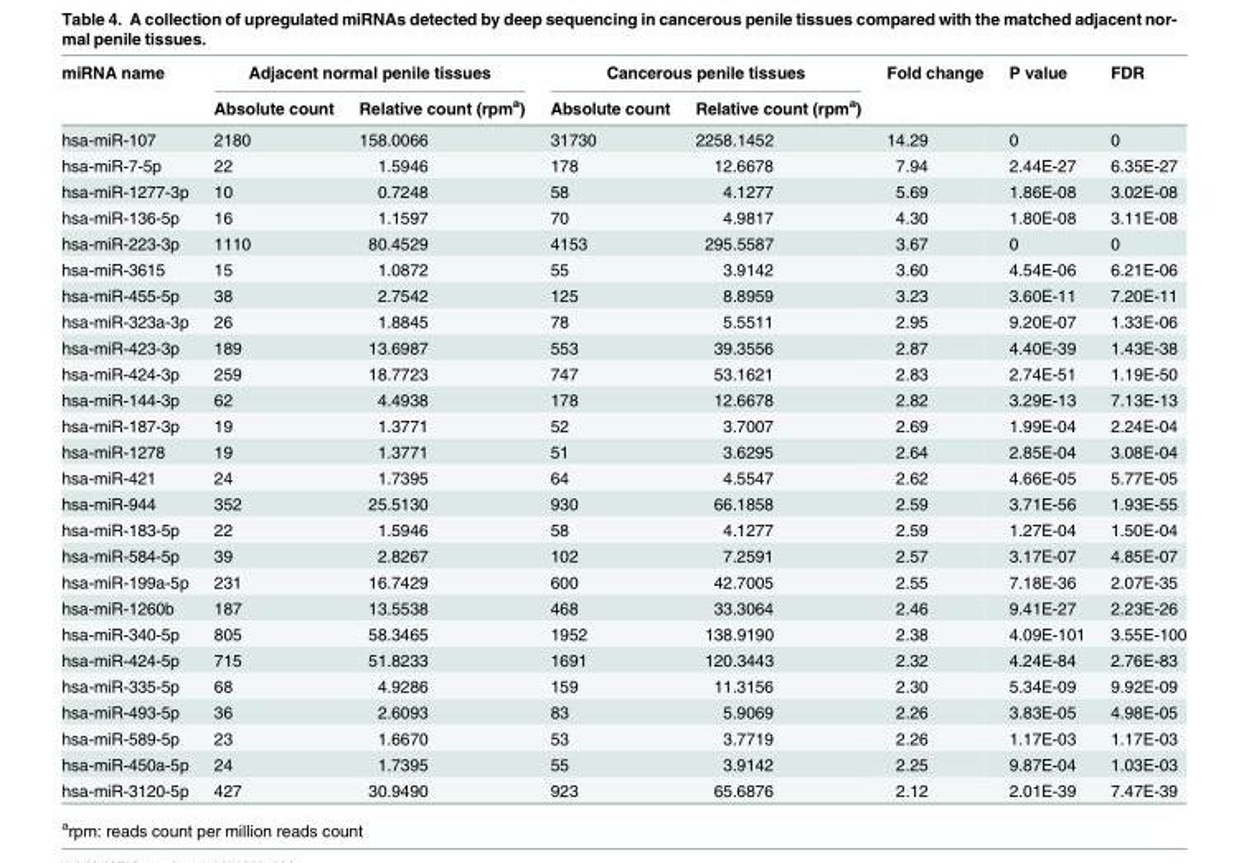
<table><thead><tr><td rowspan="2">miRNA name</td><td colspan="2">Adjacent normal penile tissues</td><td colspan="2">Cancerous penile tissues</td><td rowspan="2">Fold change</td><td rowspan="2">P value</td><td rowspan="2">FDR</td></tr><tr><td>Absolute count</td><td>Relative count (rpm<sup>a</sup>)</td><td>Absolute count</td><td>Relative count (rpm<sup>a</sup>)</td></tr></thead><tbody><tr><td>hsa-miR-107</td><td>2180</td><td>158.0066</td><td>31730</td><td>2258.1452</td><td>14.29</td><td>0</td><td>0</td></tr><tr><td>hsa-miR-7-5p</td><td>22</td><td>1.5946</td><td>178</td><td>12.6678</td><td>7.94</td><td>2.44E-27</td><td>6.35E-27</td></tr><tr><td>hsa-miR-1277-3p</td><td>10</td><td>0.7248</td><td>58</td><td>4.1277</td><td>5.69</td><td>1.86E-08</td><td>3.02E-08</td></tr><tr><td>hsa-miR-136-5p</td><td>16</td><td>1.1597</td><td>70</td><td>4.9817</td><td>4.30</td><td>1.80E-08</td><td>3.11E-08</td></tr><tr><td>hsa-miR-223-3p</td><td>1110</td><td>80.4529</td><td>4153</td><td>295.5587</td><td>3.67</td><td>0</td><td>0</td></tr><tr><td>hsa-miR-3615</td><td>15</td><td>1.0872</td><td>55</td><td>3.9142</td><td>3.60</td><td>4.54E-06</td><td>6.21E-06</td></tr><tr><td>hsa-miR-455-5p</td><td>38</td><td>2.7542</td><td>125</td><td>8.8959</td><td>3.23</td><td>3.60E-11</td><td>7.20E-11</td></tr><tr><td>hsa-miR-323a-3p</td><td>26</td><td>1.8845</td><td>78</td><td>5.5511</td><td>2.95</td><td>9.20E-07</td><td>1.33E-06</td></tr><tr><td>hsa-miR-423-3p</td><td>189</td><td>13.6987</td><td>553</td><td>39.3556</td><td>2.87</td><td>4.40E-39</td><td>1.43E-38</td></tr><tr><td>hsa-miR-424-3p</td><td>259</td><td>18.7723</td><td>747</td><td>53.1621</td><td>2.83</td><td>2.74E-51</td><td>1.19E-50</td></tr><tr><td>hsa-miR-144-3p</td><td>62</td><td>4.4938</td><td>178</td><td>12.6678</td><td>2.82</td><td>3.29E-13</td><td>7.13E-13</td></tr><tr><td>hsa-miR-187-3p</td><td>19</td><td>1.3771</td><td>52</td><td>3.7007</td><td>2.69</td><td>1.99E-04</td><td>2.24E-04</td></tr><tr><td>hsa-miR-1278</td><td>19</td><td>1.3771</td><td>51</td><td>3.6295</td><td>2.64</td><td>2.85E-04</td><td>3.08E-04</td></tr><tr><td>hsa-miR-421</td><td>24</td><td>1.7395</td><td>64</td><td>4.5547</td><td>2.62</td><td>4.66E-05</td><td>5.77E-05</td></tr><tr><td>hsa-miR-944</td><td>352</td><td>25.5130</td><td>930</td><td>66.1858</td><td>2.59</td><td>3.71E-56</td><td>1.93E-55</td></tr><tr><td>hsa-miR-183-5p</td><td>22</td><td>1.5946</td><td>58</td><td>4.1277</td><td>2.59</td><td>1.27E-04</td><td>1.50E-04</td></tr><tr><td>hsa-miR-584-5p</td><td>39</td><td>2.8267</td><td>102</td><td>7.2591</td><td>2.57</td><td>3.17E-07</td><td>4.85E-07</td></tr><tr><td>hsa-miR-199a-5p</td><td>231</td><td>16.7429</td><td>600</td><td>42.7005</td><td>2.55</td><td>7.18E-36</td><td>2.07E-35</td></tr><tr><td>hsa-miR-1260b</td><td>187</td><td>13.5538</td><td>468</td><td>33.3064</td><td>2.46</td><td>9.41E-27</td><td>2.23E-26</td></tr><tr><td>hsa-miR-340-5p</td><td>805</td><td>58.3465</td><td>1952</td><td>138.9190</td><td>2.38</td><td>4.09E-101</td><td>3.55E-100</td></tr><tr><td>hsa-miR-424-5p</td><td>715</td><td>51.8233</td><td>1691</td><td>120.3443</td><td>2.32</td><td>4.24E-84</td><td>2.76E-83</td></tr><tr><td>hsa-miR-335-5p</td><td>68</td><td>4.9286</td><td>159</td><td>11.3156</td><td>2.30</td><td>5.34E-09</td><td>9.92E-09</td></tr><tr><td>hsa-miR-493-5p</td><td>36</td><td>2.6093</td><td>83</td><td>5.9069</td><td>2.26</td><td>3.83E-05</td><td>4.98E-05</td></tr><tr><td>hsa-miR-589-5p</td><td>23</td><td>1.6670</td><td>53</td><td>3.7719</td><td>2.26</td><td>1.17E-03</td><td>1.17E-03</td></tr><tr><td>hsa-miR-450a-5p</td><td>24</td><td>1.7395</td><td>55</td><td>3.9142</td><td>2.25</td><td>9.87E-04</td><td>1.03E-03</td></tr><tr><td>hsa-miR-3120-5p</td><td>427</td><td>30.9490</td><td>923</td><td>65.6876</td><td>2.12</td><td>2.01E-39</td><td>7.47E-39</td></tr></tbody></table>